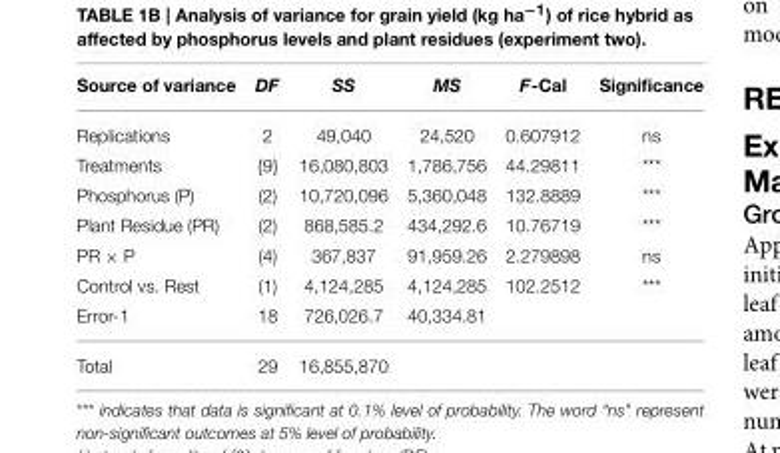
<table><thead><tr><td>Source of variance</td><td>DF</td><td>SS</td><td>MS</td><td>F-Cal</td><td>Significance</td></tr></thead><tbody><tr><td>Replications</td><td>2</td><td>49,040</td><td>24,520</td><td>0.607912</td><td>ns</td></tr><tr><td>Treatments</td><td>{9}</td><td>16,080,803</td><td>1,786,756</td><td>44.29811</td><td>***</td></tr><tr><td>Phosphorus (P)</td><td>(2)</td><td>10,720,096</td><td>5,360,048</td><td>132.8889</td><td>***</td></tr><tr><td>Plant Residue (PR)</td><td>(2)</td><td>868,585.2</td><td>434,292.6</td><td>10.76719</td><td>***</td></tr><tr><td>PR × P</td><td>(4)</td><td>367,837</td><td>91,959.26</td><td>2.279898</td><td>ns</td></tr><tr><td>Control vs. Rest</td><td>(1)</td><td>4,124,285</td><td>4,124,285</td><td>102.2512</td><td>***</td></tr><tr><td>Error-1</td><td>18</td><td>726,026.7</td><td>40,334.81</td><td></td><td></td></tr><tr><td>Total</td><td>29</td><td>16,855,870</td><td></td><td></td><td></td></tr></tbody></table>